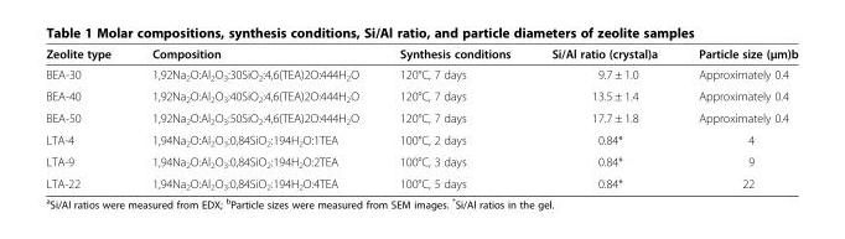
<table><thead><tr><td>Zeolite type</td><td>Composition</td><td>Synthesis conditions</td><td>Si/Al ratio (crystal)a</td><td>Particle size (μm)b</td></tr></thead><tbody><tr><td>BEA-30</td><td>1,92Na<sub>2</sub>O:Al<sub>2</sub>O<sub>3</sub>:30SiO<sub>2</sub>:4,6(TEA)2O:444H<sub>2</sub>O</td><td>120°C, 7 days</td><td>9.7 ± 1.0</td><td>Approximately 0.4</td></tr><tr><td>BEA-40</td><td>1,92Na<sub>2</sub>O:Al<sub>2</sub>O<sub>3</sub>:40SiO<sub>2</sub>:4,6(TEA)2O:444H<sub>2</sub>O</td><td>120°C, 7 days</td><td>13.5 ± 1.4</td><td>Approximately 0.4</td></tr><tr><td>BEA-50</td><td>1,92Na<sub>2</sub>O:Al<sub>2</sub>O<sub>3</sub>:50SiO<sub>2</sub>:4,6(TEA)2O:444H<sub>2</sub>O</td><td>120°C, 7 days</td><td>17.7 ± 1.8</td><td>Approximately 0.4</td></tr><tr><td>LTA-4</td><td>1,94Na<sub>2</sub>O:Al<sub>2</sub>O<sub>3</sub>:0,84SiO<sub>2</sub>:194H<sub>2</sub>O:1TEA</td><td>100°C, 2 days</td><td>0.84*</td><td>4</td></tr><tr><td>LTA-9</td><td>1,94Na<sub>2</sub>O:Al<sub>2</sub>O<sub>3</sub>:0,84SiO<sub>2</sub>:194H<sub>2</sub>O:2TEA</td><td>100°C, 3 days</td><td>0.84*</td><td>9</td></tr><tr><td>LTA-22</td><td>1,94Na<sub>2</sub>O:Al<sub>2</sub>O<sub>3</sub>:0,84SiO<sub>2</sub>:194H<sub>2</sub>O:4TEA</td><td>100°C, 5 days</td><td>0.84*</td><td>22</td></tr></tbody></table>